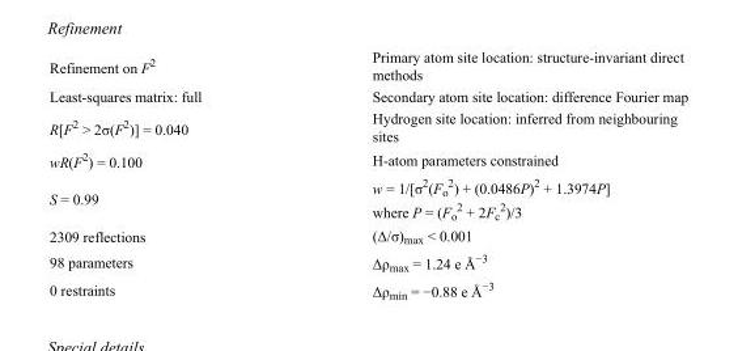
<table><tbody><tr><td>Refinement on F<sup>2</sup></td><td>Primary atom site location: structure-invariant direct methods</td></tr><tr><td>Least-squares matrix: full</td><td>Secondary atom site location: difference Fourier map</td></tr><tr><td>R[F<sup>2</sup> &gt; 2σ(F<sup>2</sup>)] = 0.040</td><td>Hydrogen site location: inferred from neighbouring sites</td></tr><tr><td>wR(F<sup>2</sup>) = 0.100</td><td>H-atom parameters constrained</td></tr><tr><td>S = 0.99</td><td>w = 1/[σ<sup>2</sup>(F<sub>o</sub> <sup>2</sup>) + (0.0486P)<sup>2</sup> + 1.3974P] where P = (F<sub>o</sub> <sup>2</sup> + 2F<sub>c</sub> <sup>2</sup>)/3</td></tr><tr><td>2309 reflections</td><td>(Δ/σ)<sub>max</sub> &lt; 0.001</td></tr><tr><td>98 parameters</td><td>Δρ<sub>max</sub> = 1.24 e Å<sup>−3</sup></td></tr><tr><td>0 restraints</td><td>Δρ<sub>min</sub> = −0.88 e Å<sup>−3</sup></td></tr></tbody></table>